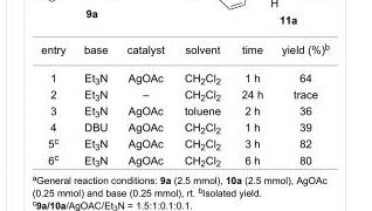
<table><tbody><tr><td>entry</td><td>base</td><td>catalyst</td><td>solvent</td><td>time</td><td>yield (%)<sup>b</sup></td></tr><tr><td>1</td><td>Et<sub>3</sub>N</td><td>AgOAc</td><td>CH<sub>2</sub>Cl<sub>2</sub></td><td>1 h</td><td>64</td></tr><tr><td>2</td><td>Et<sub>3</sub>N</td><td>–</td><td>CH<sub>2</sub>Cl<sub>2</sub></td><td>24 h</td><td>trace</td></tr><tr><td>3</td><td>Et<sub>3</sub>N</td><td>AgOAc</td><td>toluene</td><td>2 h</td><td>36</td></tr><tr><td>4</td><td>DBU</td><td>AgOAc</td><td>CH<sub>2</sub>Cl<sub>2</sub></td><td>1 h</td><td>39</td></tr><tr><td>5<sup>c</sup></td><td>Et<sub>3</sub>N</td><td>AgOAc</td><td>CH<sub>2</sub>Cl<sub>2</sub></td><td>3 h</td><td>82</td></tr><tr><td>6<sup>c</sup></td><td>Et<sub>3</sub>N</td><td>AgOAc</td><td>CH<sub>2</sub>Cl<sub>2</sub></td><td>6 h</td><td>80</td></tr></tbody></table>